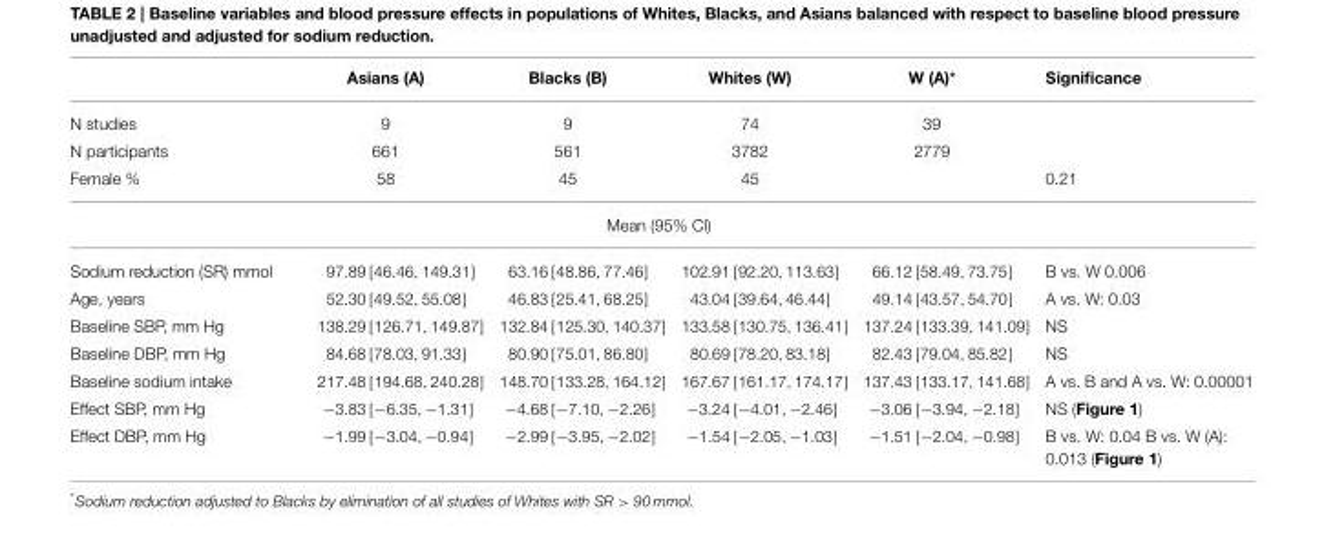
<table><thead><tr><td></td><td>Asians (A)</td><td>Blacks (B)</td><td>Whites (W)</td><td>W (A)*</td><td>Significance</td></tr></thead><tbody><tr><td>N studies</td><td>9</td><td>9</td><td>74</td><td>39</td><td></td></tr><tr><td>N participants</td><td>661</td><td>561</td><td>3782</td><td>2779</td><td></td></tr><tr><td rowspan="2">Female %</td><td>58</td><td>45</td><td>45</td><td></td><td>0.21</td></tr><tr><td colspan="4">Mean (95% CI)</td><td></td></tr><tr><td>Sodium reduction (SR) mmol</td><td>97.89 [46.46, 149.31]</td><td>63.16 [48.86, 77.46]</td><td>102.91 [92.20, 113.63]</td><td>66.12 [58.49, 73.75]</td><td>B vs. W 0.006</td></tr><tr><td>Age, years</td><td>52.30 [49.52, 55.08]</td><td>46.83 [25.41, 68.25]</td><td>43.04 [39.64, 46.44]</td><td>49.14 [43.57, 54.70]</td><td>A vs. W: 0.03</td></tr><tr><td>Baseline SBP, mm Hg</td><td>138.29 [126.71, 149.87]</td><td>132.84 [125.30, 140.37]</td><td>133.58 [130.75, 136.41]</td><td>137.24 [133.39, 141.09]</td><td>NS</td></tr><tr><td>Baseline DBP, mm Hg</td><td>84.68 [78.03, 91.33]</td><td>80.90 [75.01, 86.80]</td><td>80.69 [78.20, 83.18]</td><td>82.43 [79.04, 85.82]</td><td>NS</td></tr><tr><td>Baseline sodium intake</td><td>217.48 [194.68, 240.28]</td><td>148.70 [133.28, 164.12]</td><td>167.67 [161.17, 174.17]</td><td>137.43 [133.17, 141.68]</td><td>A vs. B and A vs. W: 0.00001</td></tr><tr><td>Effect SBP, mm Hg</td><td>−3.83 [−6.35, −1.31]</td><td>−4.68 [−7.10, −2.26]</td><td>−3.24 [−4.01, −2.46]</td><td>−3.06 [−3.94, −2.18]</td><td>NS (Figure 1)</td></tr><tr><td>Effect DBP, mm Hg</td><td>−1.99 [−3.04, −0.94]</td><td>−2.99 [−3.95, −2.02]</td><td>−1.54 [−2.05, −1.03]</td><td>−1.51 [−2.04, −0.98]</td><td>B vs. W: 0.04 B vs. W (A): 0.013 (Figure 1)</td></tr></tbody></table>